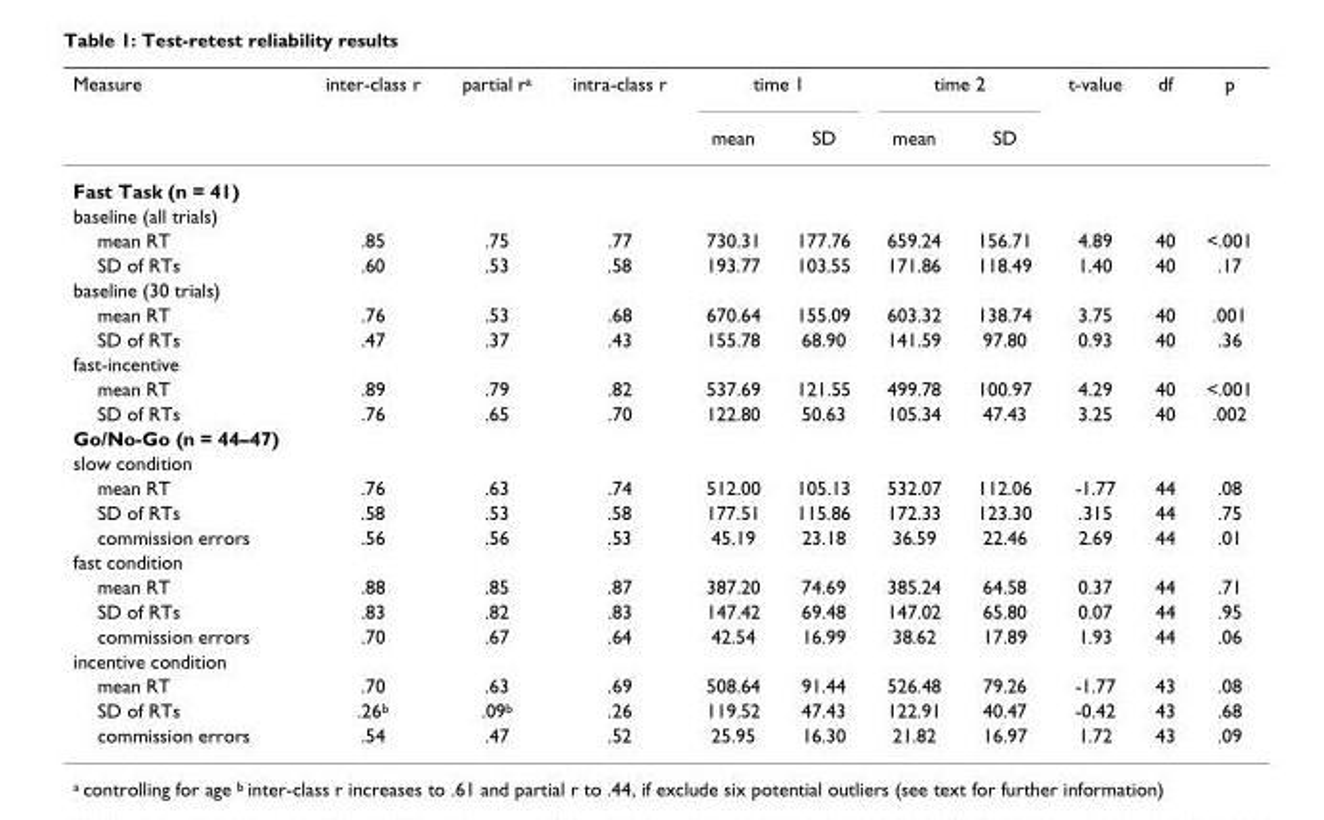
<table><thead><tr><td rowspan="2">Measure</td><td rowspan="2">inter-class r</td><td rowspan="2">partial r<sup>a</sup></td><td rowspan="2">intra-class r</td><td colspan="2">time 1</td><td colspan="2">time 2</td><td rowspan="2">t-value</td><td rowspan="2">df</td><td rowspan="2">p</td></tr><tr><td>mean</td><td>SD</td><td>mean</td><td>SD</td></tr></thead><tbody><tr><td colspan="11">Fast Task (n = 41)</td></tr><tr><td colspan="11">baseline (all trials)</td></tr><tr><td>mean RT</td><td>.85</td><td>.75</td><td>.77</td><td>730.31</td><td>177.76</td><td>659.24</td><td>156.71</td><td>4.89</td><td>40</td><td>&lt;.001</td></tr><tr><td>SD of RTs</td><td>.60</td><td>.53</td><td>.58</td><td>193.77</td><td>103.55</td><td>171.86</td><td>118.49</td><td>1.40</td><td>40</td><td>.17</td></tr><tr><td colspan="11">baseline (30 trials)</td></tr><tr><td>mean RT</td><td>.76</td><td>.53</td><td>.68</td><td>670.64</td><td>155.09</td><td>603.32</td><td>138.74</td><td>3.75</td><td>40</td><td>.001</td></tr><tr><td>SD of RTs</td><td>.47</td><td>.37</td><td>.43</td><td>155.78</td><td>68.90</td><td>141.59</td><td>97.80</td><td>0.93</td><td>40</td><td>.36</td></tr><tr><td colspan="11">fast-incentive</td></tr><tr><td>mean RT</td><td>.89</td><td>.79</td><td>.82</td><td>537.69</td><td>121.55</td><td>499.78</td><td>100.97</td><td>4.29</td><td>40</td><td>&lt;.001</td></tr><tr><td>SD of RTs</td><td>.76</td><td>.65</td><td>.70</td><td>122.80</td><td>50.63</td><td>105.34</td><td>47.43</td><td>3.25</td><td>40</td><td>.002</td></tr><tr><td colspan="11">Go/No-Go (n = 44–47)</td></tr><tr><td colspan="11">slow condition</td></tr><tr><td>mean RT</td><td>.76</td><td>.63</td><td>.74</td><td>512.00</td><td>105.13</td><td>532.07</td><td>112.06</td><td>-1.77</td><td>44</td><td>.08</td></tr><tr><td>SD of RTs</td><td>.58</td><td>.53</td><td>.58</td><td>177.51</td><td>115.86</td><td>172.33</td><td>123.30</td><td>.315</td><td>44</td><td>.75</td></tr><tr><td>commission errors</td><td>.56</td><td>.56</td><td>.53</td><td>45.19</td><td>23.18</td><td>36.59</td><td>22.46</td><td>2.69</td><td>44</td><td>.01</td></tr><tr><td colspan="11">fast condition</td></tr><tr><td>mean RT</td><td>.88</td><td>.85</td><td>.87</td><td>387.20</td><td>74.69</td><td>385.24</td><td>64.58</td><td>0.37</td><td>44</td><td>.71</td></tr><tr><td>SD of RTs</td><td>.83</td><td>.82</td><td>.83</td><td>147.42</td><td>69.48</td><td>147.02</td><td>65.80</td><td>0.07</td><td>44</td><td>.95</td></tr><tr><td>commission errors</td><td>.70</td><td>.67</td><td>.64</td><td>42.54</td><td>16.99</td><td>38.62</td><td>17.89</td><td>1.93</td><td>44</td><td>.06</td></tr><tr><td colspan="11">incentive condition</td></tr><tr><td>mean RT</td><td>.70</td><td>.63</td><td>.69</td><td>508.64</td><td>91.44</td><td>526.48</td><td>79.26</td><td>-1.77</td><td>43</td><td>.08</td></tr><tr><td>SD of RTs</td><td>.26<sup>b</sup></td><td>.09<sup>b</sup></td><td>.26</td><td>119.52</td><td>47.43</td><td>122.91</td><td>40.47</td><td>-0.42</td><td>43</td><td>.68</td></tr><tr><td>commission errors</td><td>.54</td><td>.47</td><td>.52</td><td>25.95</td><td>16.30</td><td>21.82</td><td>16.97</td><td>1.72</td><td>43</td><td>.09</td></tr></tbody></table>